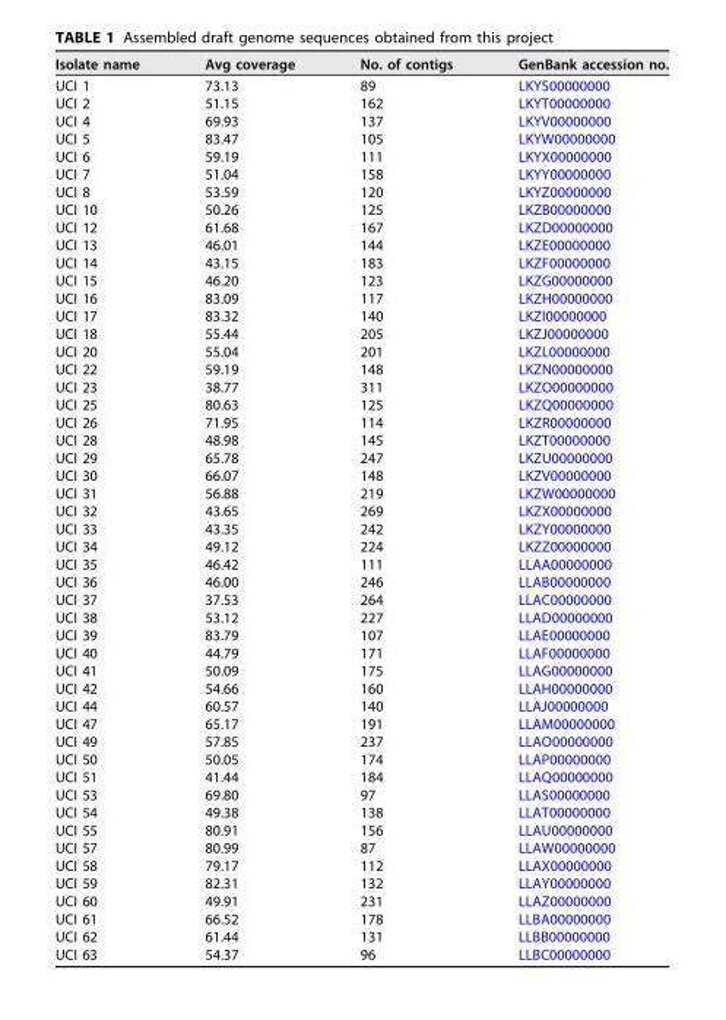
<table><thead><tr><td>Isolate name</td><td>Avg coverage</td><td>No. of contigs</td><td>GenBank accession no.</td></tr></thead><tbody><tr><td>UCI 1</td><td>73.13</td><td>89</td><td>LKYS00000000</td></tr><tr><td>UCI 2</td><td>51.15</td><td>162</td><td>LKYT00000000</td></tr><tr><td>UCI 4</td><td>69.93</td><td>137</td><td>LKYV00000000</td></tr><tr><td>UCI 5</td><td>83.47</td><td>105</td><td>LKYW00000000</td></tr><tr><td>UCI 6</td><td>59.19</td><td>111</td><td>LKYX00000000</td></tr><tr><td>UCI 7</td><td>51.04</td><td>158</td><td>LKYY00000000</td></tr><tr><td>UCI 8</td><td>53.59</td><td>120</td><td>LKYZ00000000</td></tr><tr><td>UCI 10</td><td>50.26</td><td>125</td><td>LKZB00000000</td></tr><tr><td>UCI 12</td><td>61.68</td><td>167</td><td>LKZD00000000</td></tr><tr><td>UCI 13</td><td>46.01</td><td>144</td><td>LKZE00000000</td></tr><tr><td>UCI 14</td><td>43.15</td><td>183</td><td>LKZF00000000</td></tr><tr><td>UCI 15</td><td>46.20</td><td>123</td><td>LKZG00000000</td></tr><tr><td>UCI 16</td><td>83.09</td><td>117</td><td>LKZH00000000</td></tr><tr><td>UCI 17</td><td>83.32</td><td>140</td><td>LKZI00000000</td></tr><tr><td>UCI 18</td><td>55.44</td><td>205</td><td>LKZJ00000000</td></tr><tr><td>UCI 20</td><td>55.04</td><td>201</td><td>LKZL00000000</td></tr><tr><td>UCI 22</td><td>59.19</td><td>148</td><td>LKZN00000000</td></tr><tr><td>UCI 23</td><td>38.77</td><td>311</td><td>LKZO00000000</td></tr><tr><td>UCI 25</td><td>80.63</td><td>125</td><td>LKZQ00000000</td></tr><tr><td>UCI 26</td><td>71.95</td><td>114</td><td>LKZR00000000</td></tr><tr><td>UCI 28</td><td>48.98</td><td>145</td><td>LKZT00000000</td></tr><tr><td>UCI 29</td><td>65.78</td><td>247</td><td>LKZU00000000</td></tr><tr><td>UCI 30</td><td>66.07</td><td>148</td><td>LKZV00000000</td></tr><tr><td>UCI 31</td><td>56.88</td><td>219</td><td>LKZW00000000</td></tr><tr><td>UCI 32</td><td>43.65</td><td>269</td><td>LKZX00000000</td></tr><tr><td>UCI 33</td><td>43.35</td><td>242</td><td>LKZY00000000</td></tr><tr><td>UCI 34</td><td>49.12</td><td>224</td><td>LKZZ00000000</td></tr><tr><td>UCI 35</td><td>46.42</td><td>111</td><td>LLAA00000000</td></tr><tr><td>UCI 36</td><td>46.00</td><td>246</td><td>LLAB00000000</td></tr><tr><td>UCI 37</td><td>37.53</td><td>264</td><td>LLAC00000000</td></tr><tr><td>UCI 38</td><td>53.12</td><td>227</td><td>LLAD00000000</td></tr><tr><td>UCI 39</td><td>83.79</td><td>107</td><td>LLAE00000000</td></tr><tr><td>UCI 40</td><td>44.79</td><td>171</td><td>LLAF00000000</td></tr><tr><td>UCI 41</td><td>50.09</td><td>175</td><td>LLAG00000000</td></tr><tr><td>UCI 42</td><td>54.66</td><td>160</td><td>LLAH00000000</td></tr><tr><td>UCI 44</td><td>60.57</td><td>140</td><td>LLAJ00000000</td></tr><tr><td>UCI 47</td><td>65.17</td><td>191</td><td>LLAM00000000</td></tr><tr><td>UCI 49</td><td>57.85</td><td>237</td><td>LLAO00000000</td></tr><tr><td>UCI 50</td><td>50.05</td><td>174</td><td>LLAP00000000</td></tr><tr><td>UCI 51</td><td>41.44</td><td>184</td><td>LLAQ00000000</td></tr><tr><td>UCI 53</td><td>69.80</td><td>97</td><td>LLAS00000000</td></tr><tr><td>UCI 54</td><td>49.38</td><td>138</td><td>LLAT00000000</td></tr><tr><td>UCI 55</td><td>80.91</td><td>156</td><td>LLAU00000000</td></tr><tr><td>UCI 57</td><td>80.99</td><td>87</td><td>LLAW00000000</td></tr><tr><td>UCI 58</td><td>79.17</td><td>112</td><td>LLAX00000000</td></tr><tr><td>UCI 59</td><td>82.31</td><td>132</td><td>LLAY00000000</td></tr><tr><td>UCI 60</td><td>49.91</td><td>231</td><td>LLAZ00000000</td></tr><tr><td>UCI 61</td><td>66.52</td><td>178</td><td>LLBA00000000</td></tr><tr><td>UCI 62</td><td>61.44</td><td>131</td><td>LLBB00000000</td></tr><tr><td>UCI 63</td><td>54.37</td><td>96</td><td>LLBC00000000</td></tr></tbody></table>